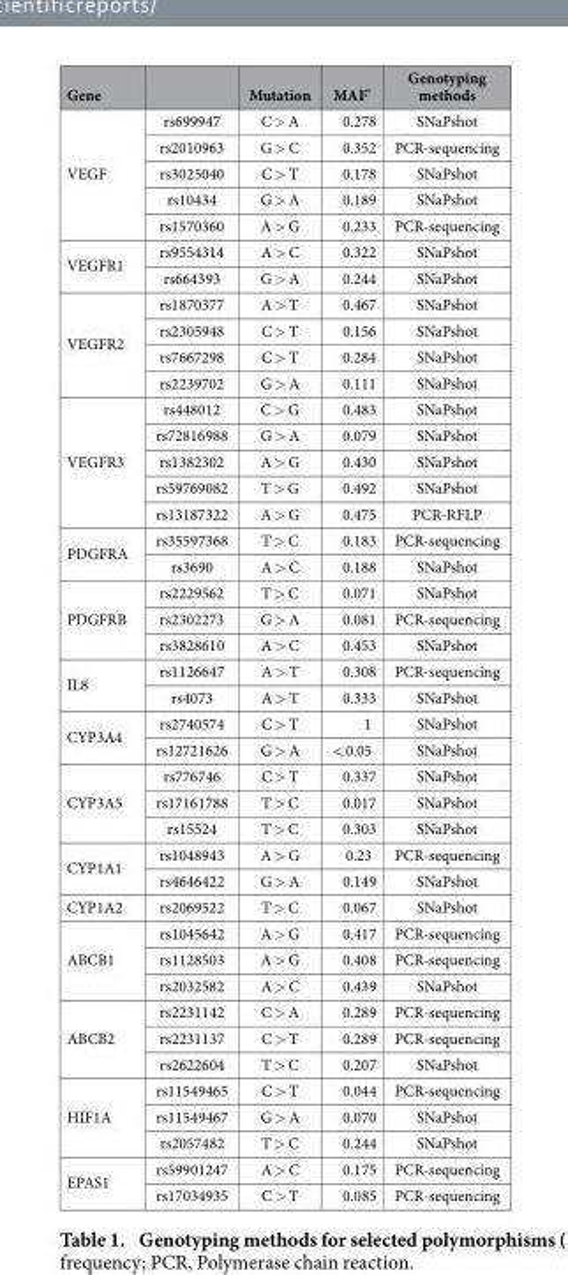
<table><thead><tr><td>Gene</td><td></td><td>Mutation</td><td>MAF*</td><td>Genotyping methods</td></tr></thead><tbody><tr><td rowspan="5">VEGF</td><td>rs699947</td><td>C &gt; A</td><td>0.278</td><td>SNaPshot</td></tr><tr><td>rs2010963</td><td>G &gt; C</td><td>0.352</td><td>PCR-sequencing</td></tr><tr><td>rs3025040</td><td>C &gt; T</td><td>0.178</td><td>SNaPshot</td></tr><tr><td>rs10434</td><td>G &gt; A</td><td>0.189</td><td>SNaPshot</td></tr><tr><td>rs1570360</td><td>A &gt; G</td><td>0.233</td><td>PCR-sequencing</td></tr><tr><td rowspan="2">VEGFR1</td><td>rs9554314</td><td>A &gt; C</td><td>0.322</td><td>SNaPshot</td></tr><tr><td>rs664393</td><td>G &gt; A</td><td>0.244</td><td>SNaPshot</td></tr><tr><td rowspan="4">VEGFR2</td><td>rs1870377</td><td>A &gt; T</td><td>0.467</td><td>SNaPshot</td></tr><tr><td>rs2305948</td><td>C &gt; T</td><td>0.156</td><td>SNaPshot</td></tr><tr><td>rs7667298</td><td>C &gt; T</td><td>0.284</td><td>SNaPshot</td></tr><tr><td>rs2239702</td><td>G &gt; A</td><td>0.111</td><td>SNaPshot</td></tr><tr><td rowspan="5">VEGFR3</td><td>rs448012</td><td>C &gt; G</td><td>0.483</td><td>SNaPshot</td></tr><tr><td>rs72816988</td><td>G &gt; A</td><td>0.079</td><td>SNaPshot</td></tr><tr><td>rs1382302</td><td>A &gt; G</td><td>0.430</td><td>SNaPshot</td></tr><tr><td>rs59769082</td><td>T &gt; G</td><td>0.492</td><td>SNaPshot</td></tr><tr><td>rs13187322</td><td>A &gt; G</td><td>0.475</td><td>PCR-RFLP</td></tr><tr><td rowspan="2">PDGFRA</td><td>rs35597368</td><td>T &gt; C</td><td>0.183</td><td>PCR-sequencing</td></tr><tr><td>rs3690</td><td>A &gt; C</td><td>0.188</td><td>SNaPshot</td></tr><tr><td rowspan="3">PDGFRB</td><td>rs2229562</td><td>T &gt; C</td><td>0.071</td><td>SNaPshot</td></tr><tr><td>rs2302273</td><td>G &gt; A</td><td>0.081</td><td>PCR-sequencing</td></tr><tr><td>rs3828610</td><td>A &gt; C</td><td>0.453</td><td>SNaPshot</td></tr><tr><td rowspan="2">IL8</td><td>rs1126647</td><td>A &gt; T</td><td>0.308</td><td>PCR-sequencing</td></tr><tr><td>rs4073</td><td>A &gt; T</td><td>0.333</td><td>SNaPshot</td></tr><tr><td rowspan="2">CYP3A4</td><td>rs2740574</td><td>C &gt; T</td><td>1</td><td>SNaPshot</td></tr><tr><td>rs12721626</td><td>G &gt; A</td><td>&lt; 0.05</td><td>SNaPshot</td></tr><tr><td rowspan="3">CYP3A5</td><td>rs776746</td><td>C &gt; T</td><td>0.337</td><td>SNaPshot</td></tr><tr><td>rs17161788</td><td>T &gt; C</td><td>0.017</td><td>SNaPshot</td></tr><tr><td>rs15524</td><td>T &gt; C</td><td>0.303</td><td>SNaPshot</td></tr><tr><td rowspan="2">CYP1A1</td><td>rs1048943</td><td>A &gt; G</td><td>0.23</td><td>PCR-sequencing</td></tr><tr><td>rs4646422</td><td>G &gt; A</td><td>0.149</td><td>SNaPshot</td></tr><tr><td>CYP1A2</td><td>rs2069522</td><td>T &gt; C</td><td>0.067</td><td>SNaPshot</td></tr><tr><td rowspan="3">ABCB1</td><td>rs1045642</td><td>A &gt; G</td><td>0.417</td><td>PCR-sequencing</td></tr><tr><td>rs1128503</td><td>A &gt; G</td><td>0.408</td><td>PCR-sequencing</td></tr><tr><td>rs2032582</td><td>A &gt; C</td><td>0.439</td><td>SNaPshot</td></tr><tr><td rowspan="3">ABCB2</td><td>rs2231142</td><td>C &gt; A</td><td>0.289</td><td>PCR-sequencing</td></tr><tr><td>rs2231137</td><td>C &gt; T</td><td>0.289</td><td>PCR-sequencing</td></tr><tr><td>rs2622604</td><td>T &gt; C</td><td>0.207</td><td>SNaPshot</td></tr><tr><td rowspan="3">HIF1A</td><td>rs11549465</td><td>C &gt; T</td><td>0.044</td><td>PCR-sequencing</td></tr><tr><td>rs11549467</td><td>G &gt; A</td><td>0.070</td><td>SNaPshot</td></tr><tr><td>rs2057482</td><td>T &gt; C</td><td>0.244</td><td>SNaPshot</td></tr><tr><td rowspan="2">EPAS1</td><td>rs59901247</td><td>A &gt; C</td><td>0.175</td><td>PCR-sequencing</td></tr><tr><td>rs17034935</td><td>C &gt; T</td><td>0.085</td><td>PCR-sequencing</td></tr></tbody></table>